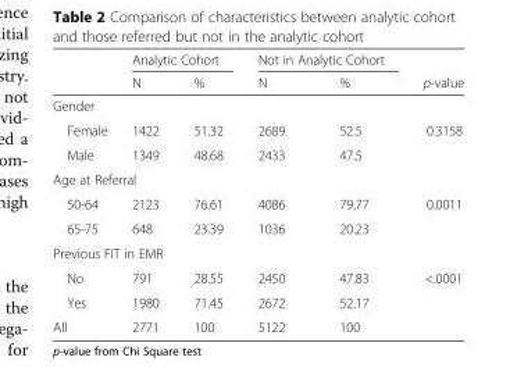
<table><thead><tr><td rowspan="2"></td><td colspan="2">Analytic Cohort</td><td colspan="2">Not in Analytic Cohort</td><td rowspan="2">p-value</td></tr><tr><td>N</td><td>%</td><td>N</td><td>%</td></tr></thead><tbody><tr><td colspan="6">Gender</td></tr><tr><td>Female</td><td>1422</td><td>51.32</td><td>2689</td><td>52.5</td><td>0.3158</td></tr><tr><td>Male</td><td>1349</td><td>48.68</td><td>2433</td><td>47.5</td><td></td></tr><tr><td colspan="6">Age at Referral</td></tr><tr><td>50-64</td><td>2123</td><td>76.61</td><td>4086</td><td>79.77</td><td>0.0011</td></tr><tr><td>65-75</td><td>648</td><td>23.39</td><td>1036</td><td>20.23</td><td></td></tr><tr><td colspan="6">Previous FIT in EMR</td></tr><tr><td>No</td><td>791</td><td>28.55</td><td>2450</td><td>47.83</td><td>&lt;.0001</td></tr><tr><td>Yes</td><td>1980</td><td>71.45</td><td>2672</td><td>52.17</td><td></td></tr><tr><td>All</td><td>2771</td><td>100</td><td>5122</td><td>100</td><td></td></tr></tbody></table>